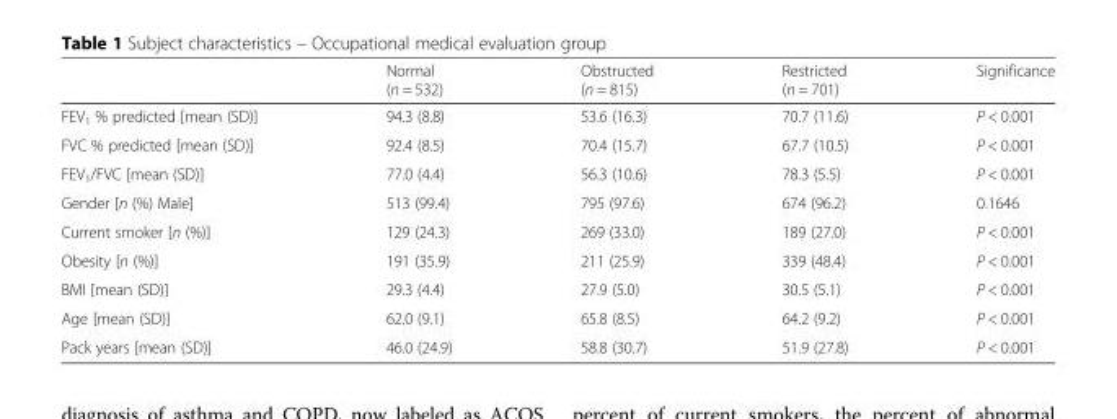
<table><thead><tr><td></td><td>Normal (n = 532)</td><td>Obstructed (n = 815)</td><td>Restricted (n = 701)</td><td>Significance</td></tr></thead><tbody><tr><td>FEV<sub>1</sub> % predicted [mean (SD)]</td><td>94.3 (8.8)</td><td>53.6 (16.3)</td><td>70.7 (11.6)</td><td>P &lt; 0.001</td></tr><tr><td>FVC % predicted [mean (SD)]</td><td>92.4 (8.5)</td><td>70.4 (15.7)</td><td>67.7 (10.5)</td><td>P &lt; 0.001</td></tr><tr><td>FEV<sub>1</sub>/FVC [mean (SD)]</td><td>77.0 (4.4)</td><td>56.3 (10.6)</td><td>78.3 (5.5)</td><td>P &lt; 0.001</td></tr><tr><td>Gender [n (%) Male]</td><td>513 (99.4)</td><td>795 (97.6)</td><td>674 (96.2)</td><td>0.1646</td></tr><tr><td>Current smoker [n (%)]</td><td>129 (24.3)</td><td>269 (33.0)</td><td>189 (27.0)</td><td>P &lt; 0.001</td></tr><tr><td>Obesity [n (%)]</td><td>191 (35.9)</td><td>211 (25.9)</td><td>339 (48.4)</td><td>P &lt; 0.001</td></tr><tr><td>BMI [mean (SD)]</td><td>29.3 (4.4)</td><td>27.9 (5.0)</td><td>30.5 (5.1)</td><td>P &lt; 0.001</td></tr><tr><td>Age [mean (SD)]</td><td>62.0 (9.1)</td><td>65.8 (8.5)</td><td>64.2 (9.2)</td><td>P &lt; 0.001</td></tr><tr><td>Pack years [mean (SD)]</td><td>46.0 (24.9)</td><td>58.8 (30.7)</td><td>51.9 (27.8)</td><td>P &lt; 0.001</td></tr></tbody></table>